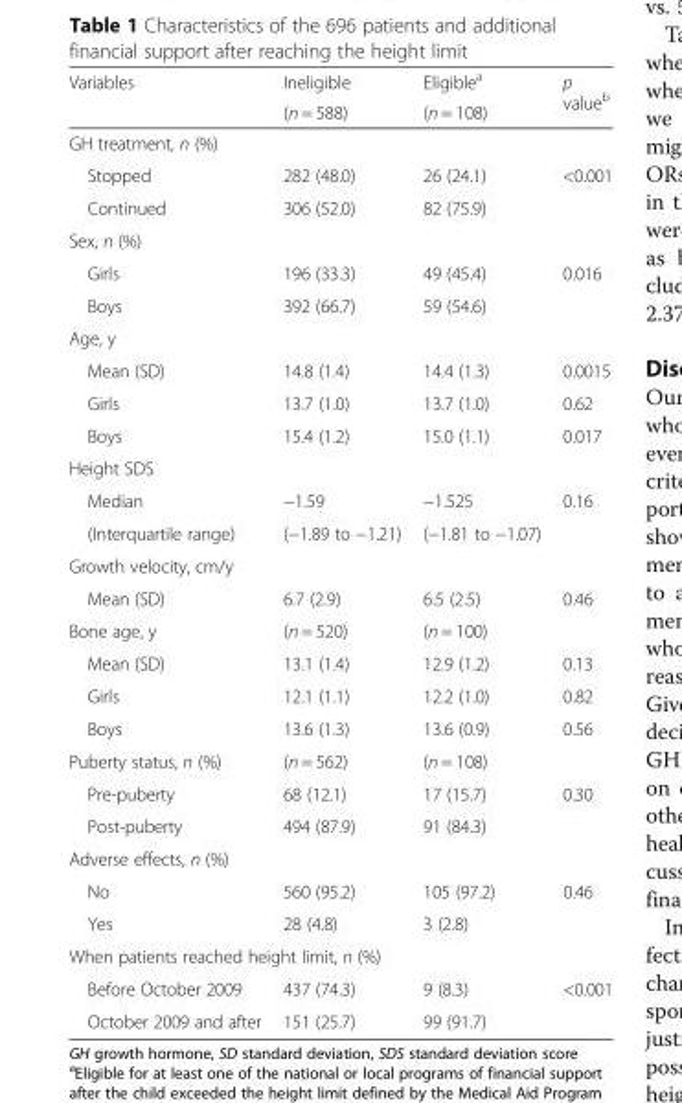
<table><thead><tr><td rowspan="2">Variables</td><td rowspan="2">Ineligible (n = 588)</td><td rowspan="2">Eligible<sup>a</sup> (n = 108)</td><td rowspan="2">p value<sup>b</sup></td></tr><tr></tr></thead><tbody><tr><td colspan="4">GH treatment, n (%)</td></tr><tr><td>Stopped</td><td>282 (48.0)</td><td>26 (24.1)</td><td>&lt;0.001</td></tr><tr><td>Continued</td><td>306 (52.0)</td><td>82 (75.9)</td><td></td></tr><tr><td colspan="4">Sex, n (%)</td></tr><tr><td>Girls</td><td>196 (33.3)</td><td>49 (45.4)</td><td>0.016</td></tr><tr><td>Boys</td><td>392 (66.7)</td><td>59 (54.6)</td><td></td></tr><tr><td colspan="4">Age, y</td></tr><tr><td>Mean (SD)</td><td>14.8 (1.4)</td><td>14.4 (1.3)</td><td>0.0015</td></tr><tr><td>Girls</td><td>13.7 (1.0)</td><td>13.7 (1.0)</td><td>0.62</td></tr><tr><td>Boys</td><td>15.4 (1.2)</td><td>15.0 (1.1)</td><td>0.017</td></tr><tr><td colspan="4">Height SDS</td></tr><tr><td>Median</td><td>−1.59</td><td>−1.525</td><td rowspan="2">0.16</td></tr><tr><td>(Interquartile range)</td><td>(−1.89 to −1.21)</td><td>(−1.81 to −1.07)</td></tr><tr><td colspan="4">Growth velocity, cm/y</td></tr><tr><td>Mean (SD)</td><td>6.7 (2.9)</td><td>6.5 (2.5)</td><td>0.46</td></tr><tr><td>Bone age, y</td><td>(n = 520)</td><td>(n = 100)</td><td></td></tr><tr><td>Mean (SD)</td><td>13.1 (1.4)</td><td>12.9 (1.2)</td><td>0.13</td></tr><tr><td>Girls</td><td>12.1 (1.1)</td><td>12.2 (1.0)</td><td>0.82</td></tr><tr><td>Boys</td><td>13.6 (1.3)</td><td>13.6 (0.9)</td><td>0.56</td></tr><tr><td>Puberty status, n (%)</td><td>(n = 562)</td><td>(n = 108)</td><td></td></tr><tr><td>Pre-puberty</td><td>68 (12.1)</td><td>17 (15.7)</td><td>0.30</td></tr><tr><td>Post-puberty</td><td>494 (87.9)</td><td>91 (84.3)</td><td></td></tr><tr><td colspan="4">Adverse effects, n (%)</td></tr><tr><td>No</td><td>560 (95.2)</td><td>105 (97.2)</td><td>0.46</td></tr><tr><td>Yes</td><td>28 (4.8)</td><td>3 (2.8)</td><td></td></tr><tr><td colspan="4">When patients reached height limit, n (%)</td></tr><tr><td>Before October 2009</td><td>437 (74.3)</td><td>9 (8.3)</td><td>&lt;0.001</td></tr><tr><td>October 2009 and after</td><td>151 (25.7)</td><td>99 (91.7)</td><td></td></tr></tbody></table>